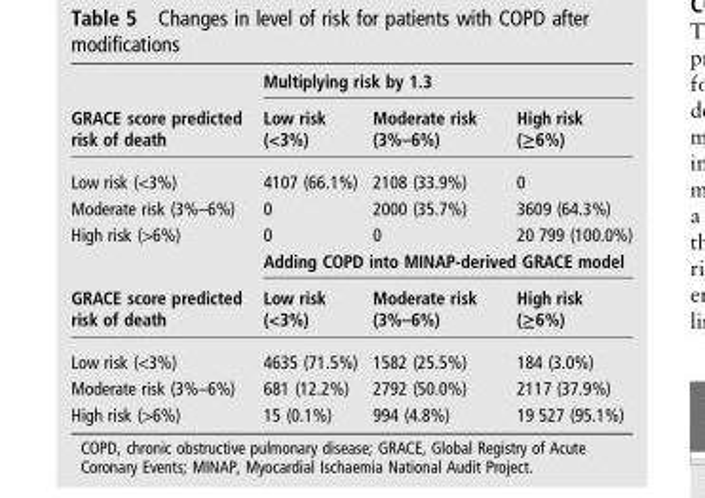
<table><thead><tr><td rowspan="2">GRACE score predicted risk of death</td><td colspan="3">Multiplying risk by 1.3</td></tr><tr><td>Low risk (&lt;3%)</td><td>Moderate risk (3%–6%)</td><td>High risk (≥6%)</td></tr></thead><tbody><tr><td>Low risk (&lt;3%)</td><td>4107 (66.1%)</td><td>2108 (33.9%)</td><td>0</td></tr><tr><td>Moderate risk (3%–6%)</td><td>0</td><td>2000 (35.7%)</td><td>3609 (64.3%)</td></tr><tr><td rowspan="2">High risk (&gt;6%)</td><td>0</td><td>0</td><td>20 799 (100.0%)</td></tr><tr><td colspan="3">Adding COPD into MINAP-derived GRACE model</td></tr><tr><td>GRACE score predicted risk of death</td><td>Low risk (&lt;3%)</td><td>Moderate risk (3%–6%)</td><td>High risk (≥6%)</td></tr><tr><td>Low risk (&lt;3%)</td><td>4635 (71.5%)</td><td>1582 (25.5%)</td><td>184 (3.0%)</td></tr><tr><td>Moderate risk (3%–6%)</td><td>681 (12.2%)</td><td>2792 (50.0%)</td><td>2117 (37.9%)</td></tr><tr><td>High risk (&gt;6%)</td><td>15 (0.1%)</td><td>994 (4.8%)</td><td>19 527 (95.1%)</td></tr></tbody></table>